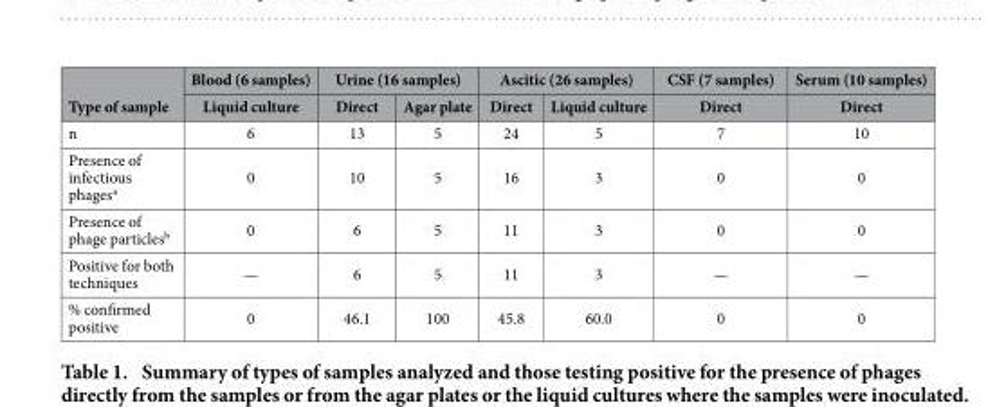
<table><thead><tr><td rowspan="2">Type of sample</td><td rowspan="2">Blood (6 samples) Liquid culture</td><td colspan="2">Urine (16 samples)</td><td colspan="2">Ascitic (26 samples)</td><td rowspan="2">CSF (7 samples) Direct</td><td rowspan="2">Serum (10 samples) Direct</td></tr><tr><td>Direct</td><td>Agar plate</td><td>Direct</td><td>Liquid culture</td></tr></thead><tbody><tr><td>n</td><td>6</td><td>13</td><td>5</td><td>24</td><td>5</td><td>7</td><td>10</td></tr><tr><td>Presence of infectious phages<sup>a</sup></td><td>0</td><td>10</td><td>5</td><td>16</td><td>3</td><td>0</td><td>0</td></tr><tr><td>Presence of phage particles<sup>b</sup></td><td>0</td><td>6</td><td>5</td><td>11</td><td>3</td><td>0</td><td>0</td></tr><tr><td>Positive for both techniques</td><td>—</td><td>6</td><td>5</td><td>11</td><td>3</td><td>—</td><td>—</td></tr><tr><td>% confirmed positive</td><td>0</td><td>46.1</td><td>100</td><td>45.8</td><td>60.0</td><td>0</td><td>0</td></tr></tbody></table>